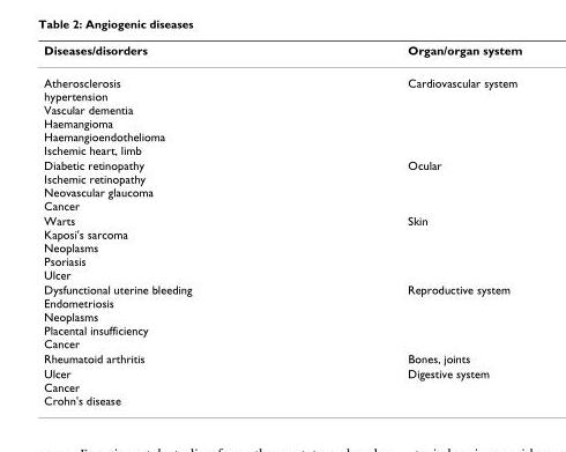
<table><thead><tr><td>Diseases/disorders</td><td>Organ/organ system</td></tr></thead><tbody><tr><td>Atherosclerosis hypertension Vascular dementia Haemangioma Haemangioendothelioma Ischemic heart, limb</td><td>Cardiovascular system</td></tr><tr><td>Diabetic retinopathy Ischemic retinopathy Neovascular glaucoma Cancer</td><td>Ocular</td></tr><tr><td>Warts Kaposi&#x27;s sarcoma Neoplasms Psoriasis Ulcer</td><td>Skin</td></tr><tr><td>Dysfunctional uterine bleeding Endometriosis Neoplasms Placental insufficiency Cancer</td><td>Reproductive system</td></tr><tr><td>Rheumatoid arthritis</td><td>Bones, joints</td></tr><tr><td>Ulcer Cancer Crohn&#x27;s disease</td><td>Digestive system</td></tr></tbody></table>